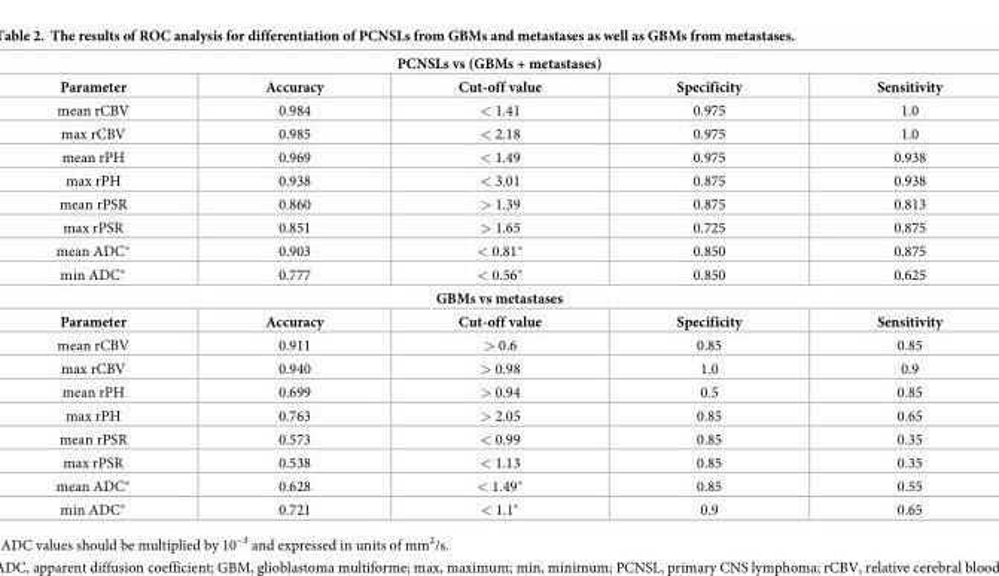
<table><tbody><tr><td colspan="5">PCNSLs vs (GBMs + metastases)</td></tr><tr><td>Parameter</td><td>Accuracy</td><td>Cut-off value</td><td>Specificity</td><td>Sensitivity</td></tr><tr><td>mean rCBV</td><td>0.984</td><td>&lt; 1.41</td><td>0.975</td><td>1.0</td></tr><tr><td>max rCBV</td><td>0.985</td><td>&lt; 2.18</td><td>0.975</td><td>1.0</td></tr><tr><td>mean rPH</td><td>0.969</td><td>&lt; 1.49</td><td>0.975</td><td>0.938</td></tr><tr><td>max rPH</td><td>0.938</td><td>&lt; 3.01</td><td>0.875</td><td>0.938</td></tr><tr><td>mean rPSR</td><td>0.860</td><td>&gt; 1.39</td><td>0.875</td><td>0.813</td></tr><tr><td>max rPSR</td><td>0.851</td><td>&gt; 1.65</td><td>0.725</td><td>0.875</td></tr><tr><td>mean ADC*</td><td>0.903</td><td>&lt; 0.81*</td><td>0.850</td><td>0.875</td></tr><tr><td>min ADC*</td><td>0.777</td><td>&lt; 0.56*</td><td>0.850</td><td>0.625</td></tr><tr><td colspan="5">GBMs vs metastases</td></tr><tr><td>Parameter</td><td>Accuracy</td><td>Cut-off value</td><td>Specificity</td><td>Sensitivity</td></tr><tr><td>mean rCBV</td><td>0.911</td><td>&gt; 0.6</td><td>0.85</td><td>0.85</td></tr><tr><td>max rCBV</td><td>0.940</td><td>&gt; 0.98</td><td>1.0</td><td>0.9</td></tr><tr><td>mean rPH</td><td>0.699</td><td>&gt; 0.94</td><td>0.5</td><td>0.85</td></tr><tr><td>max rPH</td><td>0.763</td><td>&gt; 2.05</td><td>0.85</td><td>0.65</td></tr><tr><td>mean rPSR</td><td>0.573</td><td>&lt; 0.99</td><td>0.85</td><td>0.35</td></tr><tr><td>max rPSR</td><td>0.538</td><td>&lt; 1.13</td><td>0.85</td><td>0.35</td></tr><tr><td>mean ADC*</td><td>0.628</td><td>&lt; 1.49*</td><td>0.85</td><td>0.55</td></tr><tr><td>min ADC*</td><td>0.721</td><td>&lt; 1.1*</td><td>0.9</td><td>0.65</td></tr></tbody></table>